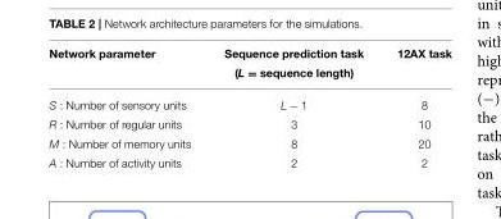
<table><thead><tr><td rowspan="2">Network parameter</td><td rowspan="2">Sequence prediction task (L = sequence length)</td><td rowspan="2">12AX task</td></tr><tr></tr></thead><tbody><tr><td>S : Number of sensory units</td><td>L − 1</td><td>8</td></tr><tr><td>R : Number of regular units</td><td>3</td><td>10</td></tr><tr><td>M : Number of memory units</td><td>8</td><td>20</td></tr><tr><td>A : Number of activity units</td><td>2</td><td>2</td></tr></tbody></table>